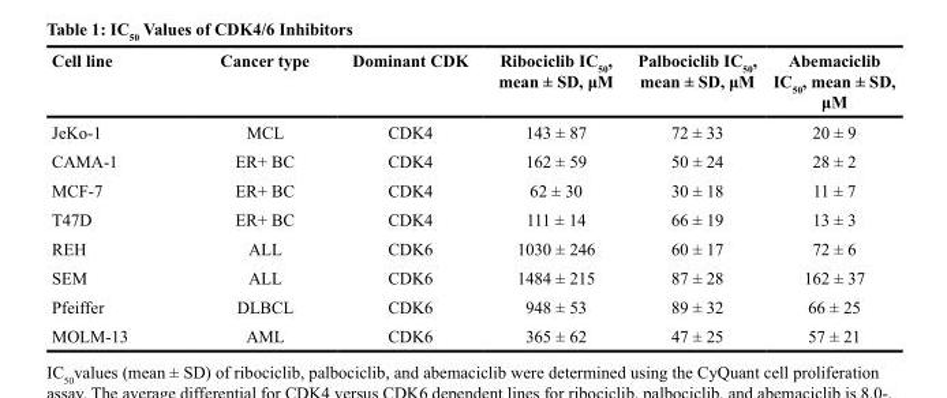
<table><thead><tr><td>Cell line</td><td>Cancer type</td><td>Dominant CDK</td><td>Ribociclib IC<sub>50</sub>, mean ± SD, μM</td><td>Palbociclib IC<sub>50</sub>, mean ± SD, μM</td><td>Abemaciclib IC<sub>50</sub>, mean ± SD, μM</td></tr></thead><tbody><tr><td>JeKo-1</td><td>MCL</td><td>CDK4</td><td>143 ± 87</td><td>72 ± 33</td><td>20 ± 9</td></tr><tr><td>CAMA-1</td><td>ER+ BC</td><td>CDK4</td><td>162 ± 59</td><td>50 ± 24</td><td>28 ± 2</td></tr><tr><td>MCF-7</td><td>ER+ BC</td><td>CDK4</td><td>62 ± 30</td><td>30 ± 18</td><td>11 ± 7</td></tr><tr><td>T47D</td><td>ER+ BC</td><td>CDK4</td><td>111 ± 14</td><td>66 ± 19</td><td>13 ± 3</td></tr><tr><td>REH</td><td>ALL</td><td>CDK6</td><td>1030 ± 246</td><td>60 ± 17</td><td>72 ± 6</td></tr><tr><td>SEM</td><td>ALL</td><td>CDK6</td><td>1484 ± 215</td><td>87 ± 28</td><td>162 ± 37</td></tr><tr><td>Pfeiffer</td><td>DLBCL</td><td>CDK6</td><td>948 ± 53</td><td>89 ± 32</td><td>66 ± 25</td></tr><tr><td>MOLM-13</td><td>AML</td><td>CDK6</td><td>365 ± 62</td><td>47 ± 25</td><td>57 ± 21</td></tr></tbody></table>